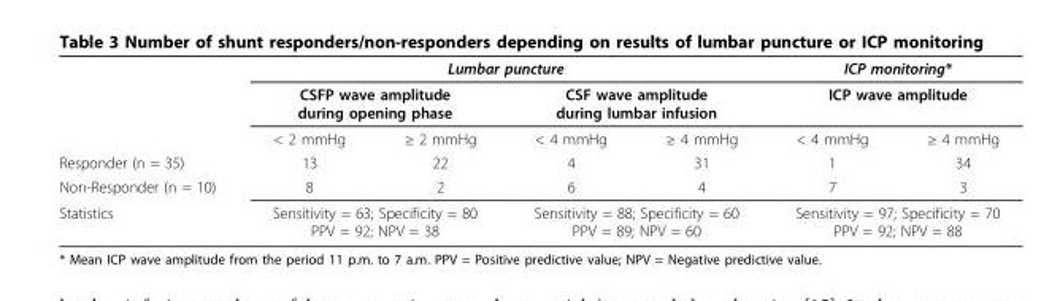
<table><thead><tr><td rowspan="3"></td><td colspan="4">Lumbar puncture</td><td rowspan="2" colspan="2">ICP monitoring* ICP wave amplitude</td></tr><tr><td colspan="2">CSFP wave amplitude during opening phase</td><td colspan="2">CSF wave amplitude during lumbar infusion</td></tr><tr><td>&lt; 2 mmHg</td><td>≥ 2 mmHg</td><td>&lt; 4 mmHg</td><td>≥ 4 mmHg</td><td>&lt; 4 mmHg</td><td>≥ 4 mmHg</td></tr></thead><tbody><tr><td>Responder (n = 35)</td><td>13</td><td>22</td><td>4</td><td>31</td><td>1</td><td>34</td></tr><tr><td>Non-Responder (n = 10)</td><td>8</td><td>2</td><td>6</td><td>4</td><td>7</td><td>3</td></tr><tr><td>Statistics</td><td colspan="2">Sensitivity = 63; Specificity = 80 PPV = 92; NPV = 38</td><td colspan="2">Sensitivity = 88; Specificity = 60 PPV = 89; NPV = 60</td><td colspan="2">Sensitivity = 97; Specificity = 70 PPV = 92; NPV = 88</td></tr></tbody></table>